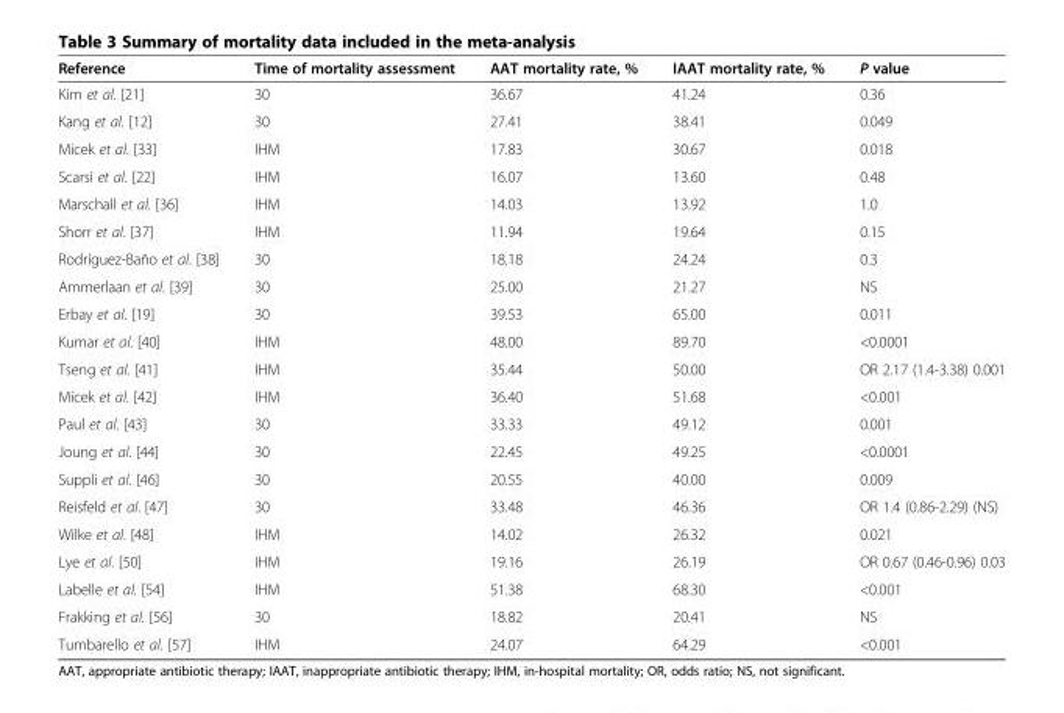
<table><thead><tr><td>Reference</td><td>Time of mortality assessment</td><td>AAT mortality rate, %</td><td>IAAT mortality rate, %</td><td>P value</td></tr></thead><tbody><tr><td>Kim et al. [21]</td><td>30</td><td>36.67</td><td>41.24</td><td>0.36</td></tr><tr><td>Kang et al. [12]</td><td>30</td><td>27.41</td><td>38.41</td><td>0.049</td></tr><tr><td>Micek et al. [33]</td><td>IHM</td><td>17.83</td><td>30.67</td><td>0.018</td></tr><tr><td>Scarsi et al. [22]</td><td>IHM</td><td>16.07</td><td>13.60</td><td>0.48</td></tr><tr><td>Marschall et al. [36]</td><td>IHM</td><td>14.03</td><td>13.92</td><td>1.0</td></tr><tr><td>Shorr et al. [37]</td><td>IHM</td><td>11.94</td><td>19.64</td><td>0.15</td></tr><tr><td>Rodríguez-Baño et al. [38]</td><td>30</td><td>18.18</td><td>24.24</td><td>0.3</td></tr><tr><td>Ammerlaan et al. [39]</td><td>30</td><td>25.00</td><td>21.27</td><td>NS</td></tr><tr><td>Erbay et al. [19]</td><td>30</td><td>39.53</td><td>65.00</td><td>0.011</td></tr><tr><td>Kumar et al. [40]</td><td>IHM</td><td>48.00</td><td>89.70</td><td>&lt;0.0001</td></tr><tr><td>Tseng et al. [41]</td><td>IHM</td><td>35.44</td><td>50.00</td><td>OR 2.17 (1.4-3.38) 0.001</td></tr><tr><td>Micek et al. [42]</td><td>IHM</td><td>36.40</td><td>51.68</td><td>&lt;0.001</td></tr><tr><td>Paul et al. [43]</td><td>30</td><td>33.33</td><td>49.12</td><td>0.001</td></tr><tr><td>Joung et al. [44]</td><td>30</td><td>22.45</td><td>49.25</td><td>&lt;0.0001</td></tr><tr><td>Suppli et al. [46]</td><td>30</td><td>20.55</td><td>40.00</td><td>0.009</td></tr><tr><td>Reisfeld et al. [47]</td><td>30</td><td>33.48</td><td>46.36</td><td>OR 1.4 (0.86-2.29) (NS)</td></tr><tr><td>Wilke et al. [48]</td><td>IHM</td><td>14.02</td><td>26.32</td><td>0.021</td></tr><tr><td>Lye et al. [50]</td><td>IHM</td><td>19.16</td><td>26.19</td><td>OR 0.67 (0.46-0.96) 0.03</td></tr><tr><td>Labelle et al. [54]</td><td>IHM</td><td>51.38</td><td>68.30</td><td>&lt;0.001</td></tr><tr><td>Frakking et al. [56]</td><td>30</td><td>18.82</td><td>20.41</td><td>NS</td></tr><tr><td>Tumbarello et al. [57]</td><td>IHM</td><td>24.07</td><td>64.29</td><td>&lt;0.001</td></tr></tbody></table>